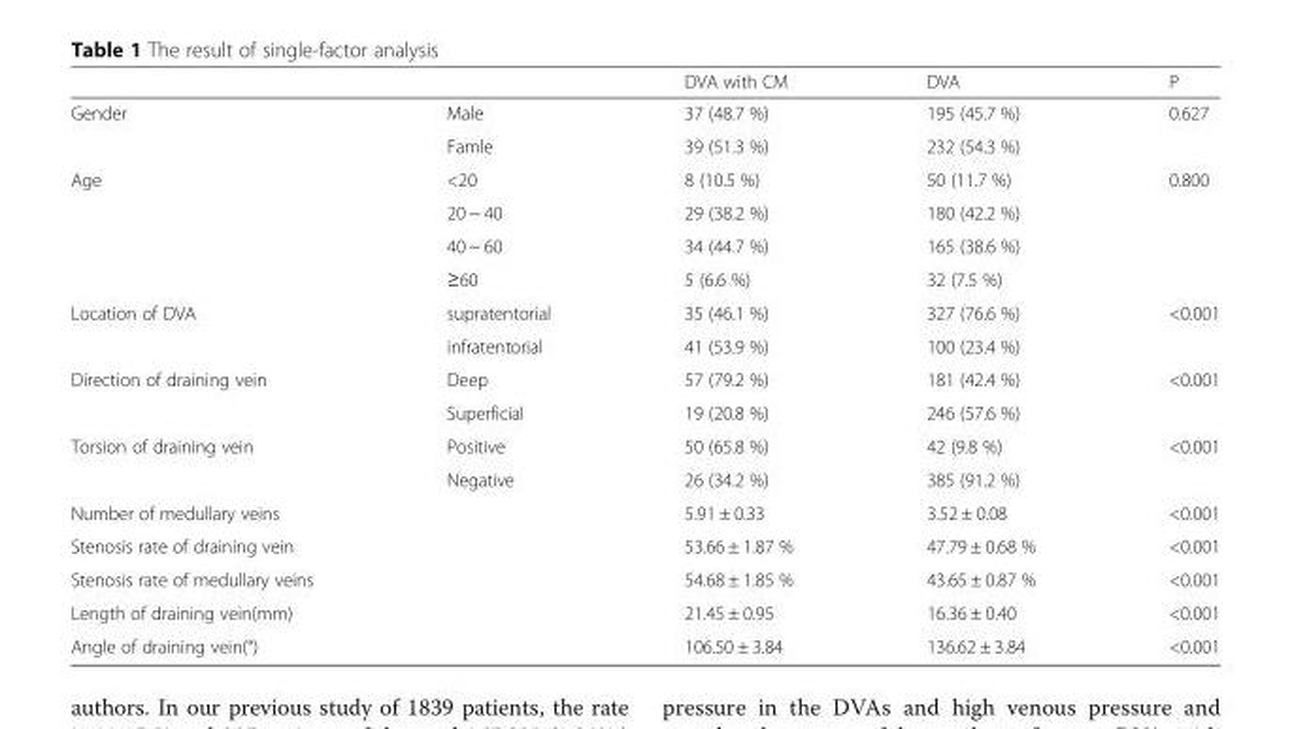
<table><thead><tr><td></td><td></td><td>DVA with CM</td><td>DVA</td><td>P</td></tr></thead><tbody><tr><td rowspan="2">Gender</td><td>Male</td><td>37 (48.7 %)</td><td>195 (45.7 %)</td><td rowspan="2">0.627</td></tr><tr><td>Famle</td><td>39 (51.3 %)</td><td>232 (54.3 %)</td></tr><tr><td rowspan="4">Age</td><td>&lt;20</td><td>8 (10.5 %)</td><td>50 (11.7 %)</td><td rowspan="4">0.800</td></tr><tr><td>20 ~ 40</td><td>29 (38.2 %)</td><td>180 (42.2 %)</td></tr><tr><td>40 ~ 60</td><td>34 (44.7 %)</td><td>165 (38.6 %)</td></tr><tr><td>≥60</td><td>5 (6.6 %)</td><td>32 (7.5 %)</td></tr><tr><td rowspan="2">Location of DVA</td><td>supratentorial</td><td>35 (46.1 %)</td><td>327 (76.6 %)</td><td rowspan="2">&lt;0.001</td></tr><tr><td>infratentorial</td><td>41 (53.9 %)</td><td>100 (23.4 %)</td></tr><tr><td rowspan="2">Direction of draining vein</td><td>Deep</td><td>57 (79.2 %)</td><td>181 (42.4 %)</td><td rowspan="2">&lt;0.001</td></tr><tr><td>Superficial</td><td>19 (20.8 %)</td><td>246 (57.6 %)</td></tr><tr><td rowspan="2">Torsion of draining vein</td><td>Positive</td><td>50 (65.8 %)</td><td>42 (9.8 %)</td><td rowspan="2">&lt;0.001</td></tr><tr><td>Negative</td><td>26 (34.2 %)</td><td>385 (91.2 %)</td></tr><tr><td>Number of medullary veins</td><td></td><td>5.91 ± 0.33</td><td>3.52 ± 0.08</td><td>&lt;0.001</td></tr><tr><td>Stenosis rate of draining vein</td><td></td><td>53.66 ± 1.87 %</td><td>47.79 ± 0.68 %</td><td>&lt;0.001</td></tr><tr><td>Stenosis rate of medullary veins</td><td></td><td>54.68 ± 1.85 %</td><td>43.65 ± 0.87 %</td><td>&lt;0.001</td></tr><tr><td>Length of draining vein(mm)</td><td></td><td>21.45 ± 0.95</td><td>16.36 ± 0.40</td><td>&lt;0.001</td></tr><tr><td>Angle of draining vein(°)</td><td></td><td>106.50 ± 3.84</td><td>136.62 ± 3.84</td><td>&lt;0.001</td></tr></tbody></table>